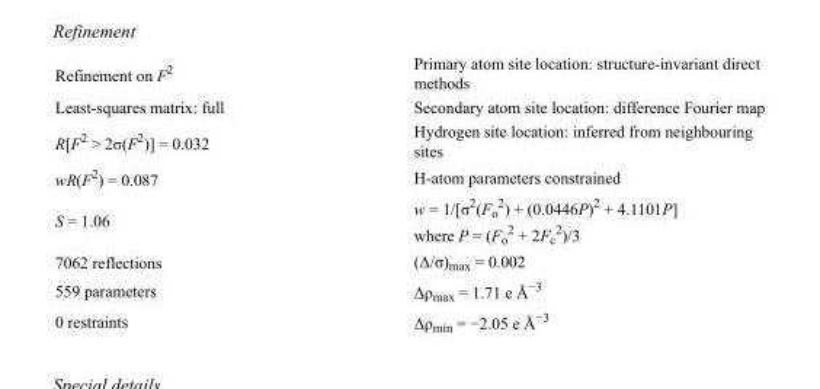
<table><tbody><tr><td>Refinement on F<sup>2</sup></td><td>Primary atom site location: structure-invariant direct methods</td></tr><tr><td>Least-squares matrix: full</td><td>Secondary atom site location: difference Fourier map</td></tr><tr><td>R[F<sup>2</sup> &gt; 2σ(F<sup>2</sup>)] = 0.032</td><td>Hydrogen site location: inferred from neighbouring sites</td></tr><tr><td>wR(F<sup>2</sup>) = 0.087</td><td>H-atom parameters constrained</td></tr><tr><td>S = 1.06</td><td>w = 1/[σ<sup>2</sup>(F<sub>o</sub> <sup>2</sup>) + (0.0446P)<sup>2</sup> + 4.1101P] where P = (F<sub>o</sub> <sup>2</sup> + 2F<sub>c</sub> <sup>2</sup>)/3</td></tr><tr><td>7062 reflections</td><td>(Δ/σ)<sub>max</sub> = 0.002</td></tr><tr><td>559 parameters</td><td>Δρ<sub>max</sub> = 1.71 e Å<sup>−3</sup></td></tr><tr><td>0 restraints</td><td>Δρ<sub>min</sub> = −2.05 e Å<sup>−3</sup></td></tr></tbody></table>